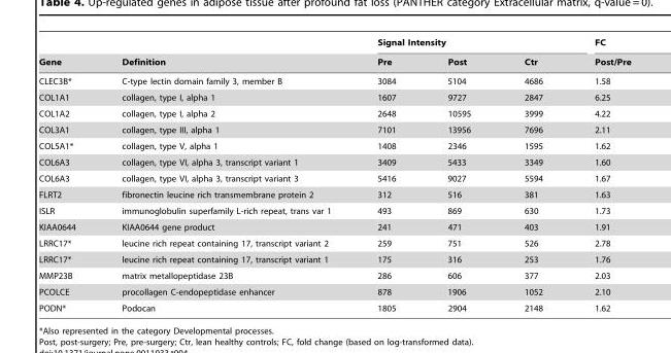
<table><thead><tr><td rowspan="2">Gene</td><td rowspan="2">Definition</td><td colspan="3">Signal Intensity</td><td rowspan="2">FC Post/Pre</td></tr><tr><td>Pre</td><td>Post</td><td>Ctr</td></tr></thead><tbody><tr><td>CLEC3B*</td><td>C-type lectin domain family 3, member B</td><td>3084</td><td>5104</td><td>4686</td><td>1.58</td></tr><tr><td>COL1A1</td><td>collagen, type I, alpha 1</td><td>1607</td><td>9727</td><td>2847</td><td>6.25</td></tr><tr><td>COL1A2</td><td>collagen, type I, alpha 2</td><td>2648</td><td>10595</td><td>3999</td><td>4.22</td></tr><tr><td>COL3A1</td><td>collagen, type III, alpha 1</td><td>7101</td><td>13956</td><td>7696</td><td>2.11</td></tr><tr><td>COL5A1*</td><td>collagen, type V, alpha 1</td><td>1408</td><td>2346</td><td>1595</td><td>1.62</td></tr><tr><td>COL6A3</td><td>collagen, type VI, alpha 3, transcript variant 1</td><td>3409</td><td>5433</td><td>3349</td><td>1.60</td></tr><tr><td>COL6A3</td><td>collagen, type VI, alpha 3, transcript variant 3</td><td>5416</td><td>9027</td><td>5594</td><td>1.67</td></tr><tr><td>FLRT2</td><td>fibronectin leucine rich transmembrane protein 2</td><td>312</td><td>516</td><td>381</td><td>1.63</td></tr><tr><td>ISLR</td><td>immunoglobulin superfamily L-rich repeat, trans var 1</td><td>493</td><td>869</td><td>630</td><td>1.73</td></tr><tr><td>KIAA0644</td><td>KIAA0644 gene product</td><td>241</td><td>471</td><td>403</td><td>1.91</td></tr><tr><td>LRRC17*</td><td>leucine rich repeat containing 17, transcript variant 2</td><td>259</td><td>751</td><td>526</td><td>2.78</td></tr><tr><td>LRRC17*</td><td>leucine rich repeat containing 17, transcript variant 1</td><td>175</td><td>316</td><td>253</td><td>1.76</td></tr><tr><td>MMP23B</td><td>matrix metallopeptidase 23B</td><td>286</td><td>606</td><td>377</td><td>2.03</td></tr><tr><td>PCOLCE</td><td>procollagen C-endopeptidase enhancer</td><td>878</td><td>1906</td><td>1052</td><td>2.10</td></tr><tr><td>PODN*</td><td>Podocan</td><td>1805</td><td>2904</td><td>2148</td><td>1.62</td></tr></tbody></table>